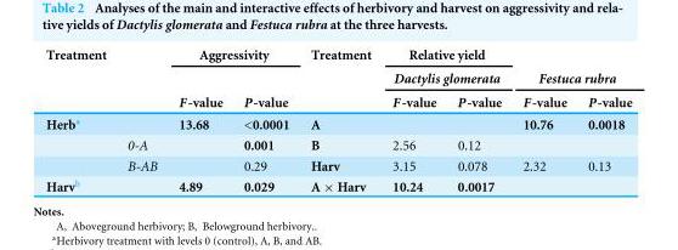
<table><thead><tr><td rowspan="3">Treatment</td><td rowspan="3"></td><td colspan="2">Aggressivity</td><td rowspan="3">Treatment</td><td rowspan="2" colspan="2">Relative yield Dactylis glomerata</td><td></td><td></td></tr><tr><td rowspan="2">F-value</td><td rowspan="2">P-value</td><td colspan="2">Festuca rubra</td></tr><tr><td>F-value</td><td>P-value</td><td>F-value</td><td>P-value</td></tr></thead><tbody><tr><td rowspan="3">Herb<sup>a</sup></td><td></td><td>13.68</td><td>&lt;0.0001</td><td>A</td><td></td><td></td><td>10.76</td><td>0.0018</td></tr><tr><td>0-A</td><td></td><td>0.001</td><td>B</td><td>2.56</td><td>0.12</td><td></td><td></td></tr><tr><td>B-AB</td><td></td><td>0.29</td><td>Harv</td><td>3.15</td><td>0.078</td><td>2.32</td><td>0.13</td></tr><tr><td>Harv<sup>b</sup></td><td></td><td>4.89</td><td>0.029</td><td>A × Harv</td><td>10.24</td><td>0.0017</td><td></td><td></td></tr></tbody></table>